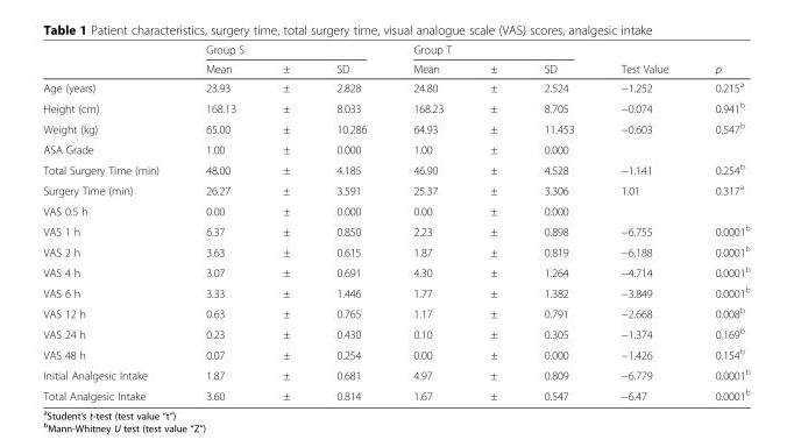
<table><thead><tr><td rowspan="2"></td><td colspan="3">Group S</td><td colspan="3">Group T</td><td rowspan="2">Test Value</td><td rowspan="2">p</td></tr><tr><td>Mean</td><td>±</td><td>SD</td><td>Mean</td><td>±</td><td>SD</td></tr></thead><tbody><tr><td>Age (years)</td><td>23.93</td><td>±</td><td>2.828</td><td>24.80</td><td>±</td><td>2.524</td><td>−1.252</td><td>0.215<sup>a</sup></td></tr><tr><td>Height (cm)</td><td>168.13</td><td>±</td><td>8.033</td><td>168.23</td><td>±</td><td>8.705</td><td>−0.074</td><td>0.941<sup>b</sup></td></tr><tr><td>Weight (kg)</td><td>65.00</td><td>±</td><td>10.286</td><td>64.93</td><td>±</td><td>11.453</td><td>−0.603</td><td>0.547<sup>b</sup></td></tr><tr><td>ASA Grade</td><td>1.00</td><td>±</td><td>0.000</td><td>1.00</td><td>±</td><td>0.000</td><td></td><td></td></tr><tr><td>Total Surgery Time (min)</td><td>48.00</td><td>±</td><td>4.185</td><td>46.90</td><td>±</td><td>4.528</td><td>−1.141</td><td>0.254<sup>b</sup></td></tr><tr><td>Surgery Time (min)</td><td>26.27</td><td>±</td><td>3.591</td><td>25.37</td><td>±</td><td>3.306</td><td>1.01</td><td>0.317<sup>a</sup></td></tr><tr><td>VAS 0.5 h</td><td>0.00</td><td>±</td><td>0.000</td><td>0.00</td><td>±</td><td>0.000</td><td></td><td></td></tr><tr><td>VAS 1 h</td><td>6.37</td><td>±</td><td>0.850</td><td>2.23</td><td>±</td><td>0.898</td><td>−6.755</td><td>0.0001<sup>b</sup></td></tr><tr><td>VAS 2 h</td><td>3.63</td><td>±</td><td>0.615</td><td>1.87</td><td>±</td><td>0.819</td><td>−6.188</td><td>0.0001<sup>b</sup></td></tr><tr><td>VAS 4 h</td><td>3.07</td><td>±</td><td>0.691</td><td>4.30</td><td>±</td><td>1.264</td><td>−4.714</td><td>0.0001<sup>b</sup></td></tr><tr><td>VAS 6 h</td><td>3.33</td><td>±</td><td>1.446</td><td>1.77</td><td>±</td><td>1.382</td><td>−3.849</td><td>0.0001<sup>b</sup></td></tr><tr><td>VAS 12 h</td><td>0.63</td><td>±</td><td>0.765</td><td>1.17</td><td>±</td><td>0.791</td><td>−2.668</td><td>0.008<sup>b</sup></td></tr><tr><td>VAS 24 h</td><td>0.23</td><td>±</td><td>0.430</td><td>0.10</td><td>±</td><td>0.305</td><td>−1.374</td><td>0.169<sup>b</sup></td></tr><tr><td>VAS 48 h</td><td>0.07</td><td>±</td><td>0.254</td><td>0.00</td><td>±</td><td>0.000</td><td>−1.426</td><td>0.154<sup>b</sup></td></tr><tr><td>Initial Analgesic Intake</td><td>1.87</td><td>±</td><td>0.681</td><td>4.97</td><td>±</td><td>0.809</td><td>−6.779</td><td>0.0001<sup>b</sup></td></tr><tr><td>Total Analgesic Intake</td><td>3.60</td><td>±</td><td>0.814</td><td>1.67</td><td>±</td><td>0.547</td><td>−6.47</td><td>0.0001<sup>b</sup></td></tr></tbody></table>